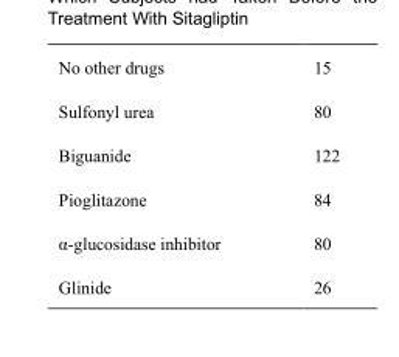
<table><tbody><tr><td>No other drugs</td><td>15</td></tr><tr><td>Sulfonyl urea</td><td>80</td></tr><tr><td>Biguanide</td><td>122</td></tr><tr><td>Pioglitazone</td><td>84</td></tr><tr><td>α-glucosidase inhibitor</td><td>80</td></tr><tr><td>Glinide</td><td>26</td></tr></tbody></table>